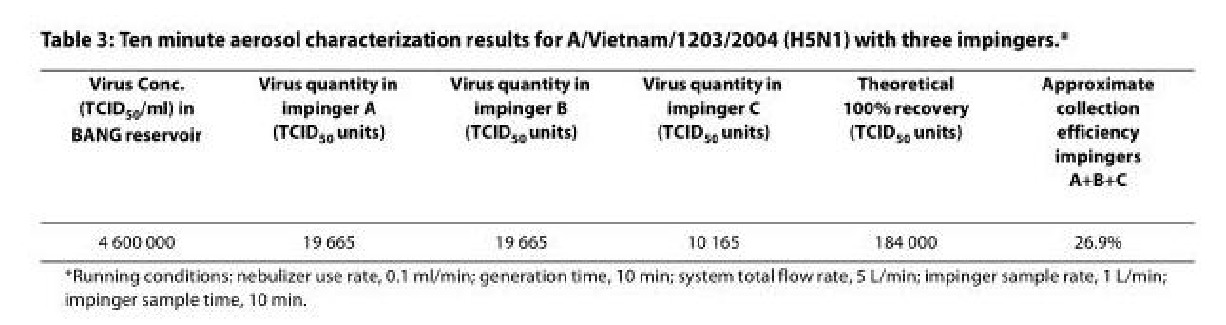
<table><thead><tr><td>Virus Conc. (TCID<sub>50</sub>/ml) in BANG reservoir</td><td>Virus quantity in impinger A (TCID<sub>50</sub> units)</td><td>Virus quantity in impinger B (TCID<sub>50</sub> units)</td><td>Virus quantity in impinger C (TCID<sub>50</sub> units)</td><td>Theoretical 100% recovery (TCID<sub>50</sub> units)</td><td>Approximate collection efficiency impingers A+B+C</td></tr></thead><tbody><tr><td>4 600 000</td><td>19 665</td><td>19 665</td><td>10 165</td><td>184 000</td><td>26.9%</td></tr></tbody></table>